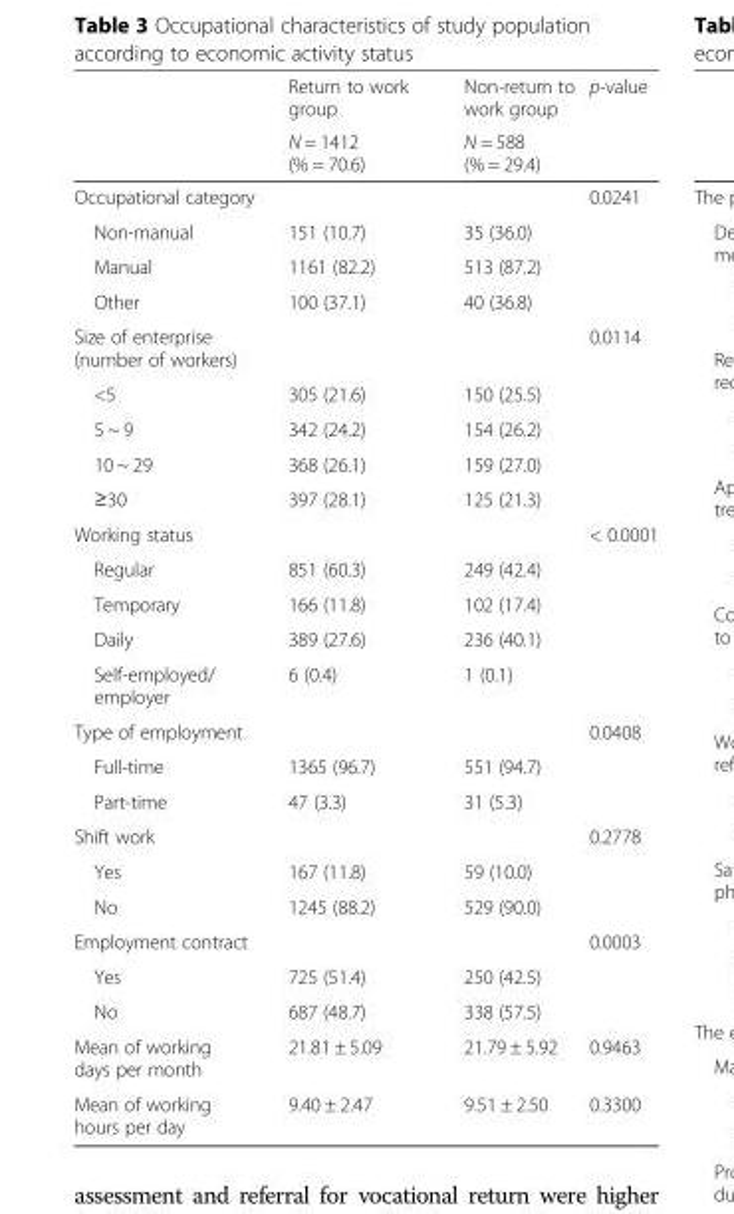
<table><thead><tr><td rowspan="2"></td><td rowspan="2">Return to work group N = 1412 (% = 70.6)</td><td rowspan="2">Non-return to work group N = 588 (% = 29.4)</td><td rowspan="2">p-value</td></tr><tr></tr></thead><tbody><tr><td>Occupational category</td><td></td><td></td><td>0.0241</td></tr><tr><td>Non-manual</td><td>151 (10.7)</td><td>35 (36.0)</td><td></td></tr><tr><td>Manual</td><td>1161 (82.2)</td><td>513 (87.2)</td><td></td></tr><tr><td>Other</td><td>100 (37.1)</td><td>40 (36.8)</td><td></td></tr><tr><td>Size of enterprise (number of workers)</td><td></td><td></td><td>0.0114</td></tr><tr><td>&lt;5</td><td>305 (21.6)</td><td>150 (25.5)</td><td></td></tr><tr><td>5 ~ 9</td><td>342 (24.2)</td><td>154 (26.2)</td><td></td></tr><tr><td>10 ~ 29</td><td>368 (26.1)</td><td>159 (27.0)</td><td></td></tr><tr><td>≥30</td><td>397 (28.1)</td><td>125 (21.3)</td><td></td></tr><tr><td>Working status</td><td></td><td></td><td>&lt; 0.0001</td></tr><tr><td>Regular</td><td>851 (60.3)</td><td>249 (42.4)</td><td></td></tr><tr><td>Temporary</td><td>166 (11.8)</td><td>102 (17.4)</td><td></td></tr><tr><td>Daily</td><td>389 (27.6)</td><td>236 (40.1)</td><td></td></tr><tr><td>Self-employed/ employer</td><td>6 (0.4)</td><td>1 (0.1)</td><td></td></tr><tr><td>Type of employment</td><td></td><td></td><td>0.0408</td></tr><tr><td>Full-time</td><td>1365 (96.7)</td><td>551 (94.7)</td><td></td></tr><tr><td>Part-time</td><td>47 (3.3)</td><td>31 (5.3)</td><td></td></tr><tr><td>Shift work</td><td></td><td></td><td>0.2778</td></tr><tr><td>Yes</td><td>167 (11.8)</td><td>59 (10.0)</td><td></td></tr><tr><td>No</td><td>1245 (88.2)</td><td>529 (90.0)</td><td></td></tr><tr><td>Employment contract</td><td></td><td></td><td>0.0003</td></tr><tr><td>Yes</td><td>725 (51.4)</td><td>250 (42.5)</td><td></td></tr><tr><td>No</td><td>687 (48.7)</td><td>338 (57.5)</td><td></td></tr><tr><td>Mean of working days per month</td><td>21.81 ± 5.09</td><td>21.79 ± 5.92</td><td>0.9463</td></tr><tr><td>Mean of working hours per day</td><td>9.40 ± 2.47</td><td>9.51 ± 2.50</td><td>0.3300</td></tr></tbody></table>